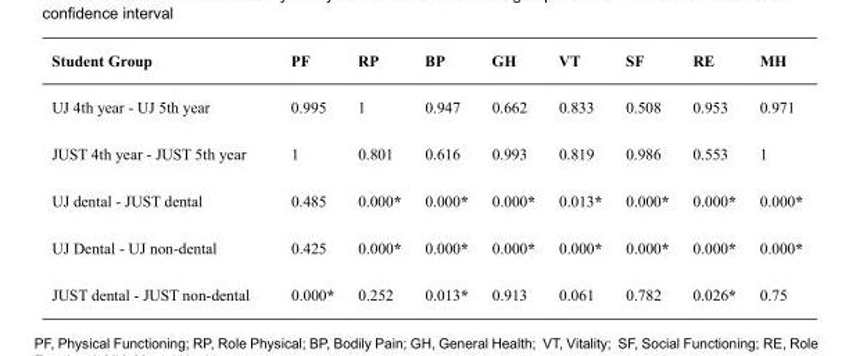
<table><thead><tr><td>Student Group</td><td>PF</td><td>RP</td><td>BP</td><td>GH</td><td>VT</td><td>SF</td><td>RE</td><td>MH</td></tr></thead><tbody><tr><td>UJ 4th year - UJ 5th year</td><td>0.995</td><td>1</td><td>0.947</td><td>0.662</td><td>0.833</td><td>0.508</td><td>0.953</td><td>0.971</td></tr><tr><td>JUST 4th year - JUST 5th year</td><td>1</td><td>0.801</td><td>0.616</td><td>0.993</td><td>0.819</td><td>0.986</td><td>0.553</td><td>1</td></tr><tr><td>UJ dental - JUST dental</td><td>0.485</td><td>0.000*</td><td>0.000*</td><td>0.000*</td><td>0.013*</td><td>0.000*</td><td>0.000*</td><td>0.000*</td></tr><tr><td>UJ Dental - UJ non-dental</td><td>0.425</td><td>0.000*</td><td>0.000*</td><td>0.000*</td><td>0.000*</td><td>0.000*</td><td>0.000*</td><td>0.000*</td></tr><tr><td>JUST dental - JUST non-dental</td><td>0.000*</td><td>0.252</td><td>0.013*</td><td>0.913</td><td>0.061</td><td>0.782</td><td>0.026*</td><td>0.75</td></tr></tbody></table>